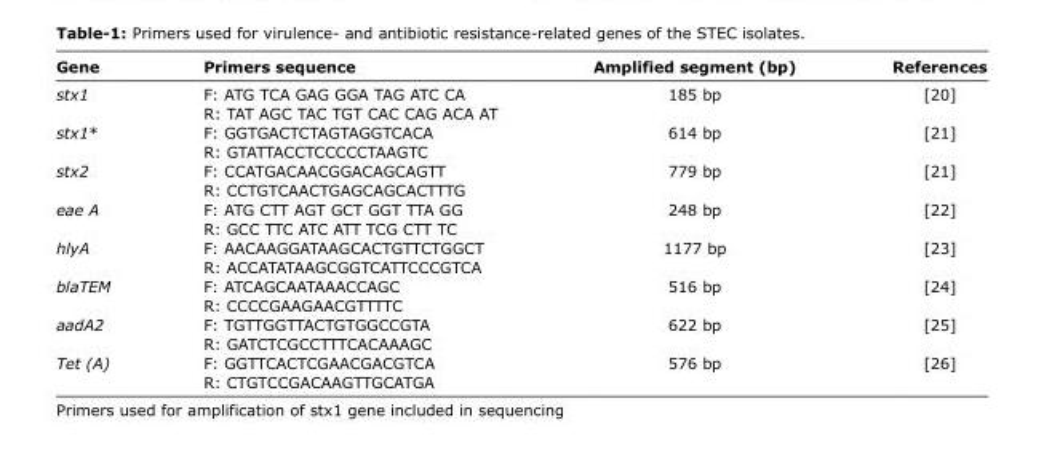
<table><thead><tr><td>Gene</td><td>Primers sequence</td><td>Amplified segment (bp)</td><td>References</td></tr></thead><tbody><tr><td rowspan="2">stx1</td><td>F: ATG TCA GAG GGA TAG ATC CA</td><td>185 bp</td><td>[20]</td></tr><tr><td>R: TAT AGC TAC TGT CAC CAG ACA AT</td><td></td><td></td></tr><tr><td rowspan="2">stx1*</td><td>F: GGTGACTCTAGTAGGTCACA</td><td>614 bp</td><td>[21]</td></tr><tr><td>R: GTATTACCTCCCCCTAAGTC</td><td></td><td></td></tr><tr><td rowspan="2">stx2</td><td>F: CCATGACAACGGACAGCAGTT</td><td>779 bp</td><td>[21]</td></tr><tr><td>R: CCTGTCAACTGAGCAGCACTTTG</td><td></td><td></td></tr><tr><td rowspan="2">eae A</td><td>F: ATG CTT AGT GCT GGT TTA GG</td><td>248 bp</td><td>[22]</td></tr><tr><td>R: GCC TTC ATC ATT TCG CTT TC</td><td></td><td></td></tr><tr><td rowspan="2">hlyA</td><td>F: AACAAGGATAAGCACTGTTCTGGCT</td><td>1177 bp</td><td>[23]</td></tr><tr><td>R: ACCATATAAGCGGTCATTCCCGTCA</td><td></td><td></td></tr><tr><td rowspan="2">blaTEM</td><td>F: ATCAGCAATAAACCAGC</td><td>516 bp</td><td>[24]</td></tr><tr><td>R: CCCCGAAGAACGTTTTC</td><td></td><td></td></tr><tr><td rowspan="2">aadA2</td><td>F: TGTTGGTTACTGTGGCCGTA</td><td>622 bp</td><td>[25]</td></tr><tr><td>R: GATCTCGCCTTTCACAAAGC</td><td></td><td></td></tr><tr><td rowspan="2">Tet (A)</td><td>F: GGTTCACTCGAACGACGTCA</td><td>576 bp</td><td>[26]</td></tr><tr><td>R: CTGTCCGACAAGTTGCATGA</td><td></td><td></td></tr></tbody></table>